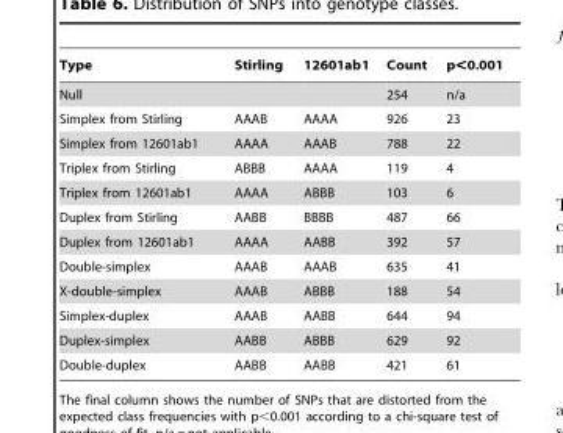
<table><thead><tr><td>Type</td><td>Stirling</td><td>12601ab1</td><td>Count</td><td>p&lt;0.001</td></tr></thead><tbody><tr><td>Null</td><td></td><td></td><td>254</td><td>n/a</td></tr><tr><td>Simplex from Stirling</td><td>AAAB</td><td>AAAA</td><td>926</td><td>23</td></tr><tr><td>Simplex from 12601ab1</td><td>AAAA</td><td>AAAB</td><td>788</td><td>22</td></tr><tr><td>Triplex from Stirling</td><td>ABBB</td><td>AAAA</td><td>119</td><td>4</td></tr><tr><td>Triplex from 12601ab1</td><td>AAAA</td><td>ABBB</td><td>103</td><td>6</td></tr><tr><td>Duplex from Stirling</td><td>AABB</td><td>BBBB</td><td>487</td><td>66</td></tr><tr><td>Duplex from 12601ab1</td><td>AAAA</td><td>AABB</td><td>392</td><td>57</td></tr><tr><td>Double-simplex</td><td>AAAB</td><td>AAAB</td><td>635</td><td>41</td></tr><tr><td>X-double-simplex</td><td>AAAB</td><td>ABBB</td><td>188</td><td>54</td></tr><tr><td>Simplex-duplex</td><td>AAAB</td><td>AABB</td><td>644</td><td>94</td></tr><tr><td>Duplex-simplex</td><td>AABB</td><td>ABBB</td><td>629</td><td>92</td></tr><tr><td>Double-duplex</td><td>AABB</td><td>AABB</td><td>421</td><td>61</td></tr></tbody></table>